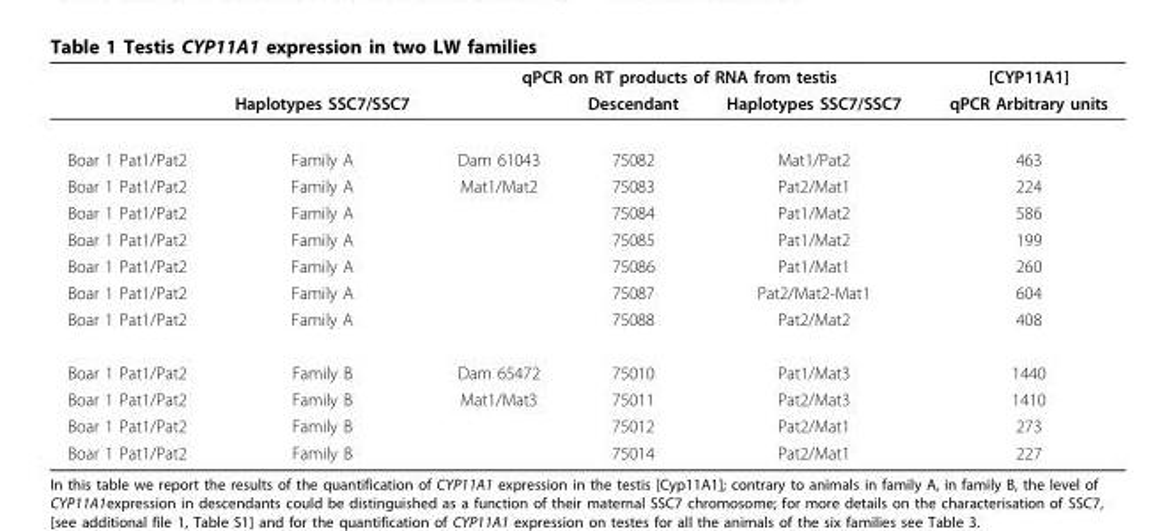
<table><thead><tr><td rowspan="2"></td><td rowspan="2">Haplotypes SSC7/SSC7</td><td colspan="3">qPCR on RT products of RNA from testis</td><td rowspan="2">[CYP11A1] qPCR Arbitrary units</td></tr><tr><td></td><td>Descendant</td><td>Haplotypes SSC7/SSC7</td></tr></thead><tbody><tr><td>Boar 1 Pat1/Pat2</td><td>Family A</td><td>Dam 61043</td><td>75082</td><td>Mat1/Pat2</td><td>463</td></tr><tr><td>Boar 1 Pat1/Pat2</td><td>Family A</td><td>Mat1/Mat2</td><td>75083</td><td>Pat2/Mat1</td><td>224</td></tr><tr><td>Boar 1 Pat1/Pat2</td><td>Family A</td><td></td><td>75084</td><td>Pat1/Mat2</td><td>586</td></tr><tr><td>Boar 1 Pat1/Pat2</td><td>Family A</td><td></td><td>75085</td><td>Pat1/Mat2</td><td>199</td></tr><tr><td>Boar 1 Pat1/Pat2</td><td>Family A</td><td></td><td>75086</td><td>Pat1/Mat1</td><td>260</td></tr><tr><td>Boar 1 Pat1/Pat2</td><td>Family A</td><td></td><td>75087</td><td>Pat2/Mat2-Mat1</td><td>604</td></tr><tr><td>Boar 1 Pat1/Pat2</td><td>Family A</td><td></td><td>75088</td><td>Pat2/Mat2</td><td>408</td></tr><tr><td>Boar 1 Pat1/Pat2</td><td>Family B</td><td>Dam 65472</td><td>75010</td><td>Pat1/Mat3</td><td>1440</td></tr><tr><td>Boar 1 Pat1/Pat2</td><td>Family B</td><td>Mat1/Mat3</td><td>75011</td><td>Pat2/Mat3</td><td>1410</td></tr><tr><td>Boar 1 Pat1/Pat2</td><td>Family B</td><td></td><td>75012</td><td>Pat2/Mat1</td><td>273</td></tr><tr><td>Boar 1 Pat1/Pat2</td><td>Family B</td><td></td><td>75014</td><td>Pat2/Mat1</td><td>227</td></tr></tbody></table>